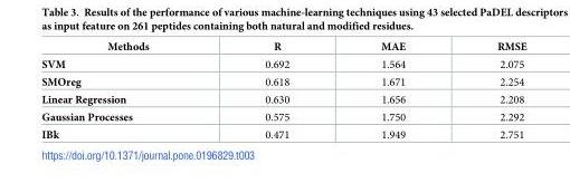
<table><thead><tr><td>Methods</td><td>R</td><td>MAE</td><td>RMSE</td></tr></thead><tbody><tr><td>SVM</td><td>0.692</td><td>1.564</td><td>2.075</td></tr><tr><td>SMOreg</td><td>0.618</td><td>1.671</td><td>2.254</td></tr><tr><td>Linear Regression</td><td>0.630</td><td>1.656</td><td>2.208</td></tr><tr><td>Gaussian Processes</td><td>0.575</td><td>1.750</td><td>2.292</td></tr><tr><td>IBk</td><td>0.471</td><td>1.949</td><td>2.751</td></tr></tbody></table>